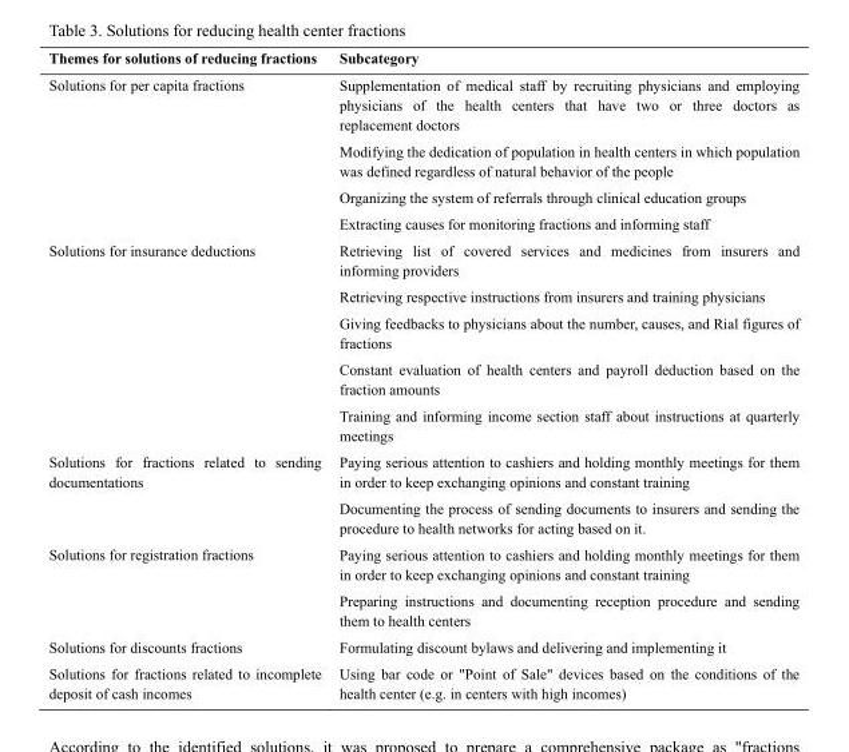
<table><thead><tr><td>Themes for solutions of reducing fractions</td><td>Subcategory</td></tr></thead><tbody><tr><td rowspan="4">Solutions for per capita fractions</td><td>Supplementation of medical staff by recruiting physicians and employing physicians of the health centers that have two or three doctors as replacement doctors</td></tr><tr><td>Modifying the dedication of population in health centers in which population was defined regardless of natural behavior of the people</td></tr><tr><td>Organizing the system of referrals through clinical education groups</td></tr><tr><td>Extracting causes for monitoring fractions and informing staff</td></tr><tr><td rowspan="5">Solutions for insurance deductions</td><td>Retrieving list of covered services and medicines from insurers and informing providers</td></tr><tr><td>Retrieving respective instructions from insurers and training physicians</td></tr><tr><td>Giving feedbacks to physicians about the number, causes, and Rial figures of fractions</td></tr><tr><td>Constant evaluation of health centers and payroll deduction based on the fraction amounts</td></tr><tr><td>Training and informing income section staff about instructions at quarterly meetings</td></tr><tr><td rowspan="2">Solutions for fractions related to sending documentations</td><td>Paying serious attention to cashiers and holding monthly meetings for them in order to keep exchanging opinions and constant training</td></tr><tr><td>Documenting the process of sending documents to insurers and sending the procedure to health networks for acting based on it.</td></tr><tr><td rowspan="2">Solutions for registration fractions</td><td>Paying serious attention to cashiers and holding monthly meetings for them in order to keep exchanging opinions and constant training</td></tr><tr><td>Preparing instructions and documenting reception procedure and sending them to health centers</td></tr><tr><td>Solutions for discounts fractions</td><td>Formulating discount bylaws and delivering and implementing it</td></tr><tr><td>Solutions for fractions related to incomplete deposit of cash incomes</td><td>Using bar code or &quot;Point of Sale&quot; devices based on the conditions of the health center (e.g. in centers with high incomes)</td></tr></tbody></table>